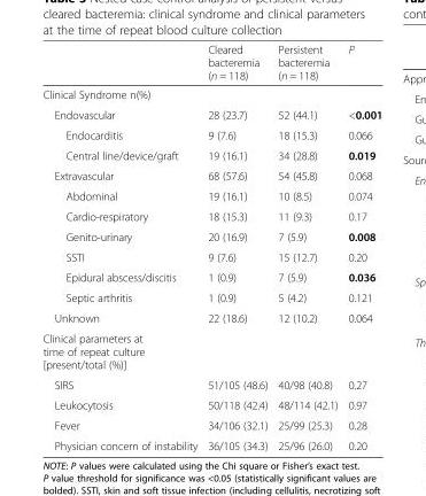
<table><thead><tr><td></td><td>Cleared bacteremia (n = 118)</td><td>Persistent bacteremia (n = 118)</td><td>P</td></tr></thead><tbody><tr><td colspan="4">Clinical Syndrome n(%)</td></tr><tr><td>Endovascular</td><td>28 (23.7)</td><td>52 (44.1)</td><td>&lt;0.001</td></tr><tr><td>Endocarditis</td><td>9 (7.6)</td><td>18 (15.3)</td><td>0.066</td></tr><tr><td>Central line/device/graft</td><td>19 (16.1)</td><td>34 (28.8)</td><td>0.019</td></tr><tr><td>Extravascular</td><td>68 (57.6)</td><td>54 (45.8)</td><td>0.068</td></tr><tr><td>Abdominal</td><td>19 (16.1)</td><td>10 (8.5)</td><td>0.074</td></tr><tr><td>Cardio-respiratory</td><td>18 (15.3)</td><td>11 (9.3)</td><td>0.17</td></tr><tr><td>Genito-urinary</td><td>20 (16.9)</td><td>7 (5.9)</td><td>0.008</td></tr><tr><td>SSTI</td><td>9 (7.6)</td><td>15 (12.7)</td><td>0.20</td></tr><tr><td>Epidural abscess/discitis</td><td>1 (0.9)</td><td>7 (5.9)</td><td>0.036</td></tr><tr><td>Septic arthritis</td><td>1 (0.9)</td><td>5 (4.2)</td><td>0.121</td></tr><tr><td>Unknown</td><td>22 (18.6)</td><td>12 (10.2)</td><td>0.064</td></tr><tr><td colspan="4">Clinical parameters at time of repeat culture [present/total (%)]</td></tr><tr><td>SIRS</td><td>51/105 (48.6)</td><td>40/98 (40.8)</td><td>0.27</td></tr><tr><td>Leukocytosis</td><td>50/118 (42.4)</td><td>48/114 (42.1)</td><td>0.97</td></tr><tr><td>Fever</td><td>34/106 (32.1)</td><td>25/99 (25.3)</td><td>0.28</td></tr><tr><td>Physician concern of instability</td><td>36/105 (34.3)</td><td>25/96 (26.0)</td><td>0.20</td></tr></tbody></table>